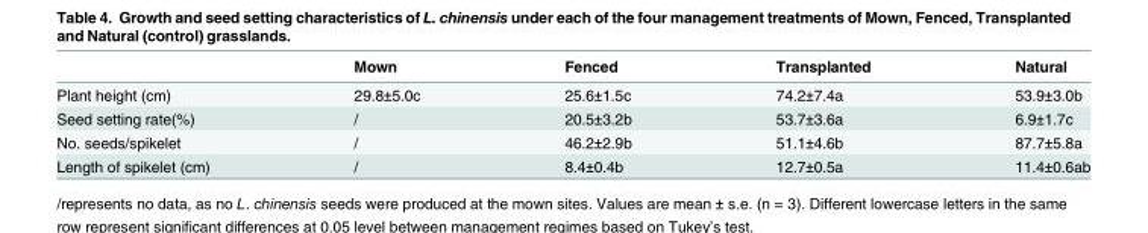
<table><thead><tr><td></td><td>Mown</td><td>Fenced</td><td>Transplanted</td><td>Natural</td></tr></thead><tbody><tr><td>Plant height (cm)</td><td>29.8±5.0c</td><td>25.6±1.5c</td><td>74.2±7.4a</td><td>53.9±3.0b</td></tr><tr><td>Seed setting rate(%)</td><td>/</td><td>20.5±3.2b</td><td>53.7±3.6a</td><td>6.9±1.7c</td></tr><tr><td>No. seeds/spikelet</td><td>/</td><td>46.2±2.9b</td><td>51.1±4.6b</td><td>87.7±5.8a</td></tr><tr><td>Length of spikelet (cm)</td><td>/</td><td>8.4±0.4b</td><td>12.7±0.5a</td><td>11.4±0.6ab</td></tr></tbody></table>